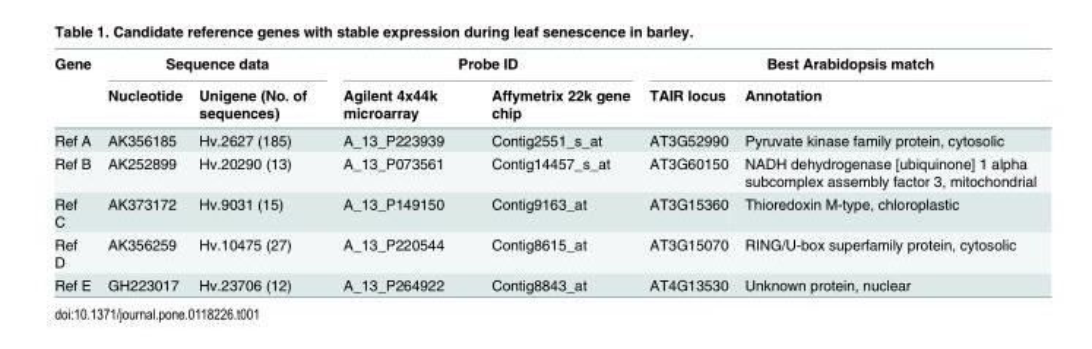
<table><thead><tr><td rowspan="2">Gene</td><td colspan="2">Sequence data</td><td colspan="2">Probe ID</td><td colspan="2">Best Arabidopsis match</td></tr><tr><td>Nucleotide</td><td>Unigene (No. of sequences)</td><td>Agilent 4x44k microarray</td><td>Affymetrix 22k gene chip</td><td>TAIR locus</td><td>Annotation</td></tr></thead><tbody><tr><td>Ref A</td><td>AK356185</td><td>Hv.2627 (185)</td><td>A_13_P223939</td><td>Contig2551_s_at</td><td>AT3G52990</td><td>Pyruvate kinase family protein, cytosolic</td></tr><tr><td>Ref B</td><td>AK252899</td><td>Hv.20290 (13)</td><td>A_13_P073561</td><td>Contig14457_s_at</td><td>AT3G60150</td><td>NADH dehydrogenase [ubiquinone] 1 alpha subcomplex assembly factor 3, mitochondrial</td></tr><tr><td>Ref C</td><td>AK373172</td><td>Hv.9031 (15)</td><td>A_13_P149150</td><td>Contig9163_at</td><td>AT3G15360</td><td>Thioredoxin M-type, chloroplastic</td></tr><tr><td>Ref D</td><td>AK356259</td><td>Hv.10475 (27)</td><td>A_13_P220544</td><td>Contig8615_at</td><td>AT3G15070</td><td>RING/U-box superfamily protein, cytosolic</td></tr><tr><td>Ref E</td><td>GH223017</td><td>Hv.23706 (12)</td><td>A_13_P264922</td><td>Contig8843_at</td><td>AT4G13530</td><td>Unknown protein, nuclear</td></tr></tbody></table>